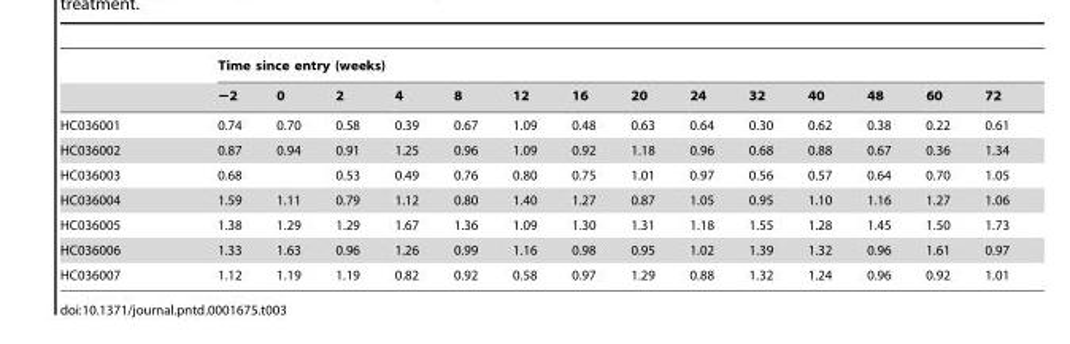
<table><thead><tr><td rowspan="2"></td><td colspan="14">Time since entry (weeks)</td></tr><tr><td>−2</td><td>0</td><td>2</td><td>4</td><td>8</td><td>12</td><td>16</td><td>20</td><td>24</td><td>32</td><td>40</td><td>48</td><td>60</td><td>72</td></tr></thead><tbody><tr><td>HC036001</td><td>0.74</td><td>0.70</td><td>0.58</td><td>0.39</td><td>0.67</td><td>1.09</td><td>0.48</td><td>0.63</td><td>0.64</td><td>0.30</td><td>0.62</td><td>0.38</td><td>0.22</td><td>0.61</td></tr><tr><td>HC036002</td><td>0.87</td><td>0.94</td><td>0.91</td><td>1.25</td><td>0.96</td><td>1.09</td><td>0.92</td><td>1.18</td><td>0.96</td><td>0.68</td><td>0.88</td><td>0.67</td><td>0.36</td><td>1.34</td></tr><tr><td>HC036003</td><td>0.68</td><td></td><td>0.53</td><td>0.49</td><td>0.76</td><td>0.80</td><td>0.75</td><td>1.01</td><td>0.97</td><td>0.56</td><td>0.57</td><td>0.64</td><td>0.70</td><td>1.05</td></tr><tr><td>HC036004</td><td>1.59</td><td>1.11</td><td>0.79</td><td>1.12</td><td>0.80</td><td>1.40</td><td>1.27</td><td>0.87</td><td>1.05</td><td>0.95</td><td>1.10</td><td>1.16</td><td>1.27</td><td>1.06</td></tr><tr><td>HC036005</td><td>1.38</td><td>1.29</td><td>1.29</td><td>1.67</td><td>1.36</td><td>1.09</td><td>1.30</td><td>1.31</td><td>1.18</td><td>1.55</td><td>1.28</td><td>1.45</td><td>1.50</td><td>1.73</td></tr><tr><td>HC036006</td><td>1.33</td><td>1.63</td><td>0.96</td><td>1.26</td><td>0.99</td><td>1.16</td><td>0.98</td><td>0.95</td><td>1.02</td><td>1.39</td><td>1.32</td><td>0.96</td><td>1.61</td><td>0.97</td></tr><tr><td>HC036007</td><td>1.12</td><td>1.19</td><td>1.19</td><td>0.82</td><td>0.92</td><td>0.58</td><td>0.97</td><td>1.29</td><td>0.88</td><td>1.32</td><td>1.24</td><td>0.96</td><td>0.92</td><td>1.01</td></tr></tbody></table>